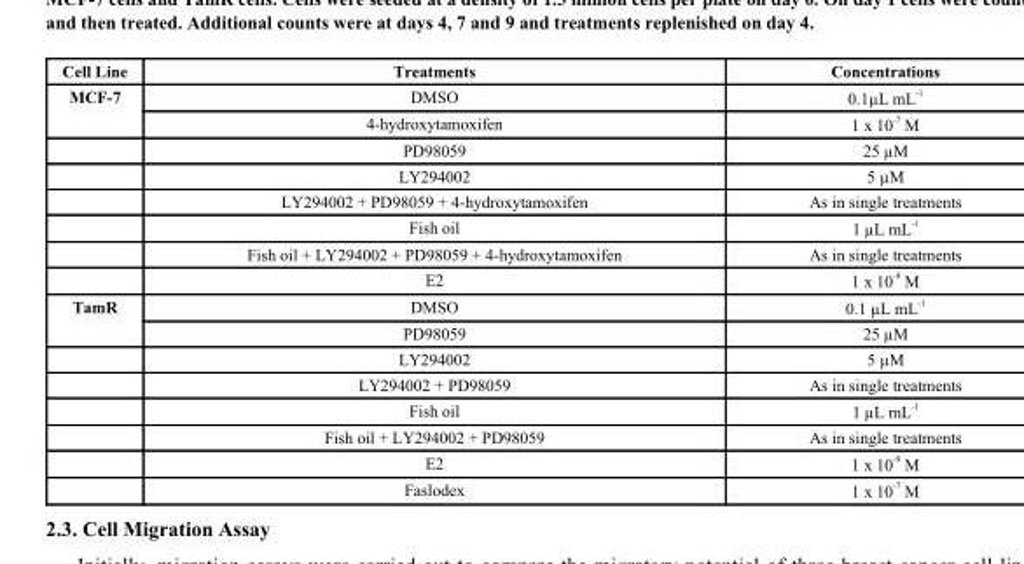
<table><thead><tr><td>Cell Line</td><td>Treatments</td><td>Concentrations</td></tr></thead><tbody><tr><td rowspan="8">MCF-7</td><td>DMSO</td><td>0.1µL mL <sup>-1</sup></td></tr><tr><td>4-hydroxytamoxifen</td><td>1 x 10 <sup>-7</sup> M</td></tr><tr><td>PD98059</td><td>25 µM</td></tr><tr><td>LY294002</td><td>5 µM</td></tr><tr><td>LY294002 + PD98059 + 4-hydroxytamoxifen</td><td>As in single treatments</td></tr><tr><td>Fish oil</td><td>1 µL mL <sup>-1</sup></td></tr><tr><td>Fish oil + LY294002 + PD98059 + 4-hydroxytamoxifen</td><td>As in single treatments</td></tr><tr><td>E2</td><td>1 x 10 <sup>-9</sup> M</td></tr><tr><td rowspan="8">TamR</td><td>DMSO</td><td>0.1 µL mL <sup>-1</sup></td></tr><tr><td>PD98059</td><td>25 µM</td></tr><tr><td>LY294002</td><td>5 µM</td></tr><tr><td>LY294002 + PD98059</td><td>As in single treatments</td></tr><tr><td>Fish oil</td><td>1 µL mL <sup>-1</sup></td></tr><tr><td>Fish oil + LY294002 + PD98059</td><td>As in single treatments</td></tr><tr><td>E2</td><td>1 x 10 <sup>-9</sup> M</td></tr><tr><td>Faslodex</td><td>1 x 10 <sup>-7</sup> M</td></tr></tbody></table>